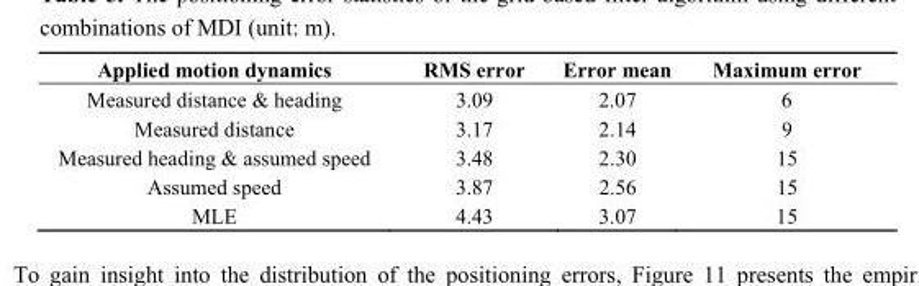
<table><thead><tr><td>Applied motion dynamics</td><td>RMS error</td><td>Error mean</td><td>Maximum error</td></tr></thead><tbody><tr><td>Measured distance &amp; heading</td><td>3.09</td><td>2.07</td><td>6</td></tr><tr><td>Measured distance</td><td>3.17</td><td>2.14</td><td>9</td></tr><tr><td>Measured heading &amp; assumed speed</td><td>3.48</td><td>2.30</td><td>15</td></tr><tr><td>Assumed speed</td><td>3.87</td><td>2.56</td><td>15</td></tr><tr><td>MLE</td><td>4.43</td><td>3.07</td><td>15</td></tr></tbody></table>